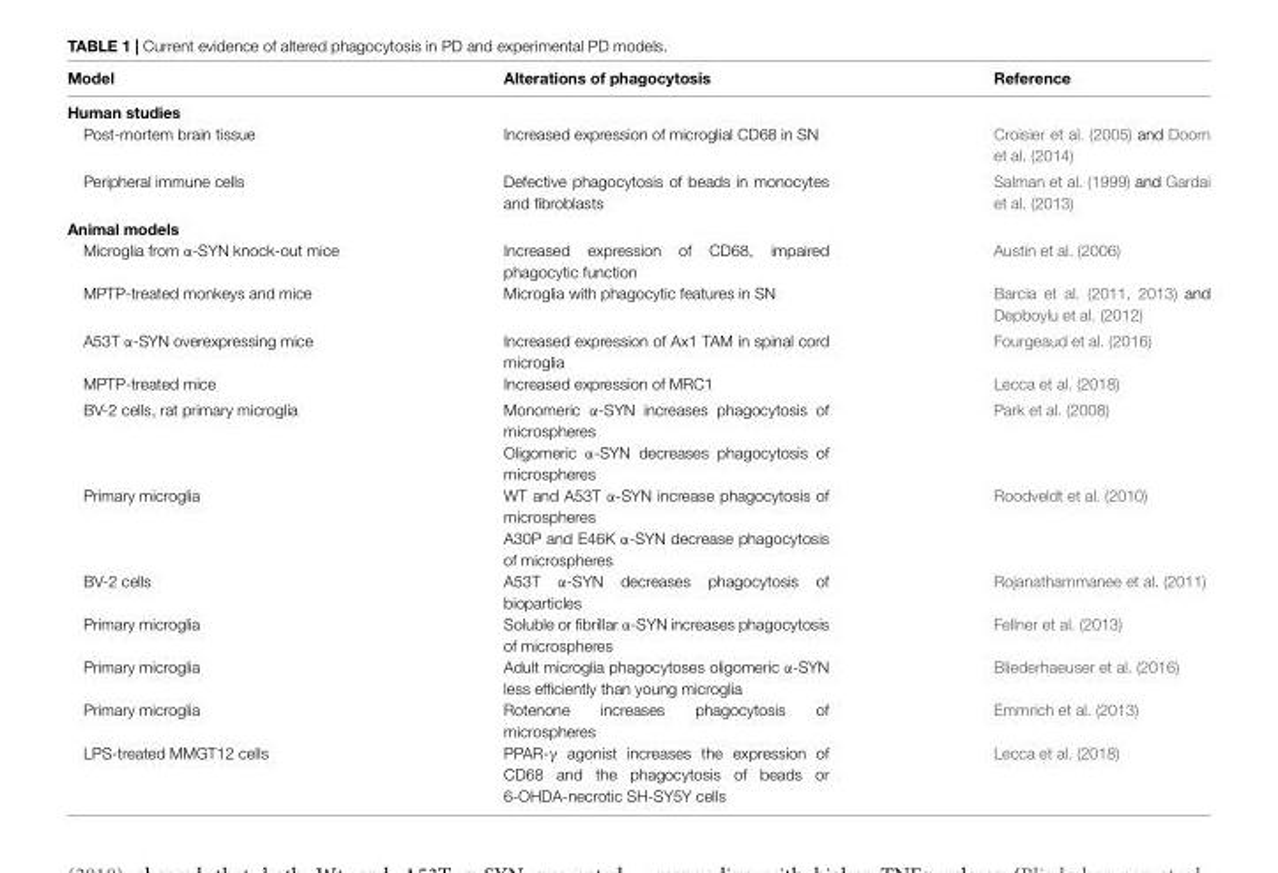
<table><thead><tr><td>Model</td><td>Alterations of phagocytosis</td><td>Reference</td></tr></thead><tbody><tr><td colspan="3">Human studies</td></tr><tr><td>Post-mortem brain tissue</td><td>Increased expression of microglial CD68 in SN</td><td>Croisier et al. (2005) and Doorn et al. (2014)</td></tr><tr><td>Peripheral immune cells</td><td>Defective phagocytosis of beads in monocytes and fibroblasts</td><td>Salman et al. (1999) and Gardai et al. (2013)</td></tr><tr><td colspan="3">Animal models</td></tr><tr><td>Microglia from α-SYN knock-out mice</td><td>Increased expression of CD68, impaired phagocytic function</td><td>Austin et al. (2006)</td></tr><tr><td>MPTP-treated monkeys and mice</td><td>Microglia with phagocytic features in SN</td><td>Barcia et al. (2011, 2013) and Depboylu et al. (2012)</td></tr><tr><td>A53T α-SYN overexpressing mice</td><td>Increased expression of Ax1 TAM in spinal cord microglia</td><td>Fourgeaud et al. (2016)</td></tr><tr><td>MPTP-treated mice</td><td>Increased expression of MRC1</td><td>Lecca et al. (2018)</td></tr><tr><td>BV-2 cells, rat primary microglia</td><td>Monomeric α-SYN increases phagocytosis of microspheres Oligomeric α-SYN decreases phagocytosis of microspheres</td><td>Park et al. (2008)</td></tr><tr><td>Primary microglia</td><td>WT and A53T α-SYN increase phagocytosis of microspheres A30P and E46K α-SYN decrease phagocytosis of microspheres</td><td>Roodveldt et al. (2010)</td></tr><tr><td>BV-2 cells</td><td>A53T α-SYN decreases phagocytosis of bioparticles</td><td>Rojanathammanee et al. (2011)</td></tr><tr><td>Primary microglia</td><td>Soluble or fibrillar α-SYN increases phagocytosis of microspheres</td><td>Fellner et al. (2013)</td></tr><tr><td>Primary microglia</td><td>Adult microglia phagocytoses oligomeric α-SYN less efficiently than young microglia</td><td>Bliederhaeuser et al. (2016)</td></tr><tr><td>Primary microglia</td><td>Rotenone increases phagocytosis of microspheres</td><td>Emmrich et al. (2013)</td></tr><tr><td>LPS-treated MMGT12 cells</td><td>PPAR-γ agonist increases the expression of CD68 and the phagocytosis of beads or 6-OHDA-necrotic SH-SY5Y cells</td><td>Lecca et al. (2018)</td></tr></tbody></table>